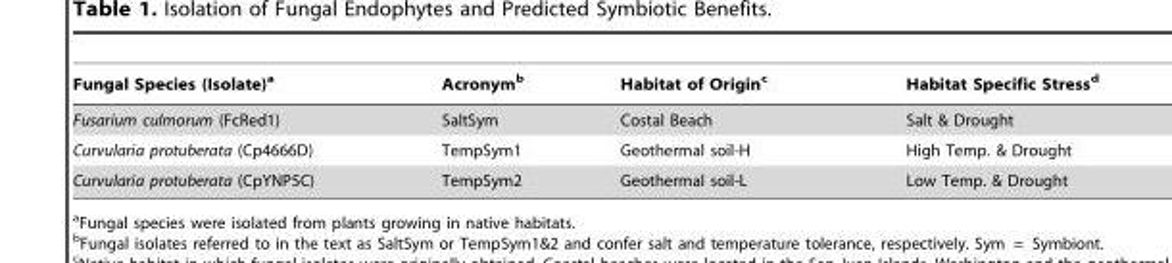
<table><thead><tr><td>Fungal Species (Isolate)<sup>a</sup></td><td>Acronym<sup>b</sup></td><td>Habitat of Origin<sup>c</sup></td><td>Habitat Specific Stress<sup>d</sup></td></tr></thead><tbody><tr><td>Fusarium culmorum (FcRed1)</td><td>SaltSym</td><td>Costal Beach</td><td>Salt &amp; Drought</td></tr><tr><td>Curvularia protuberata (Cp4666D)</td><td>TempSym1</td><td>Geothermal soil-H</td><td>High Temp. &amp; Drought</td></tr><tr><td>Curvularia protuberata (CpYNP5C)</td><td>TempSym2</td><td>Geothermal soil-L</td><td>Low Temp. &amp; Drought</td></tr></tbody></table>